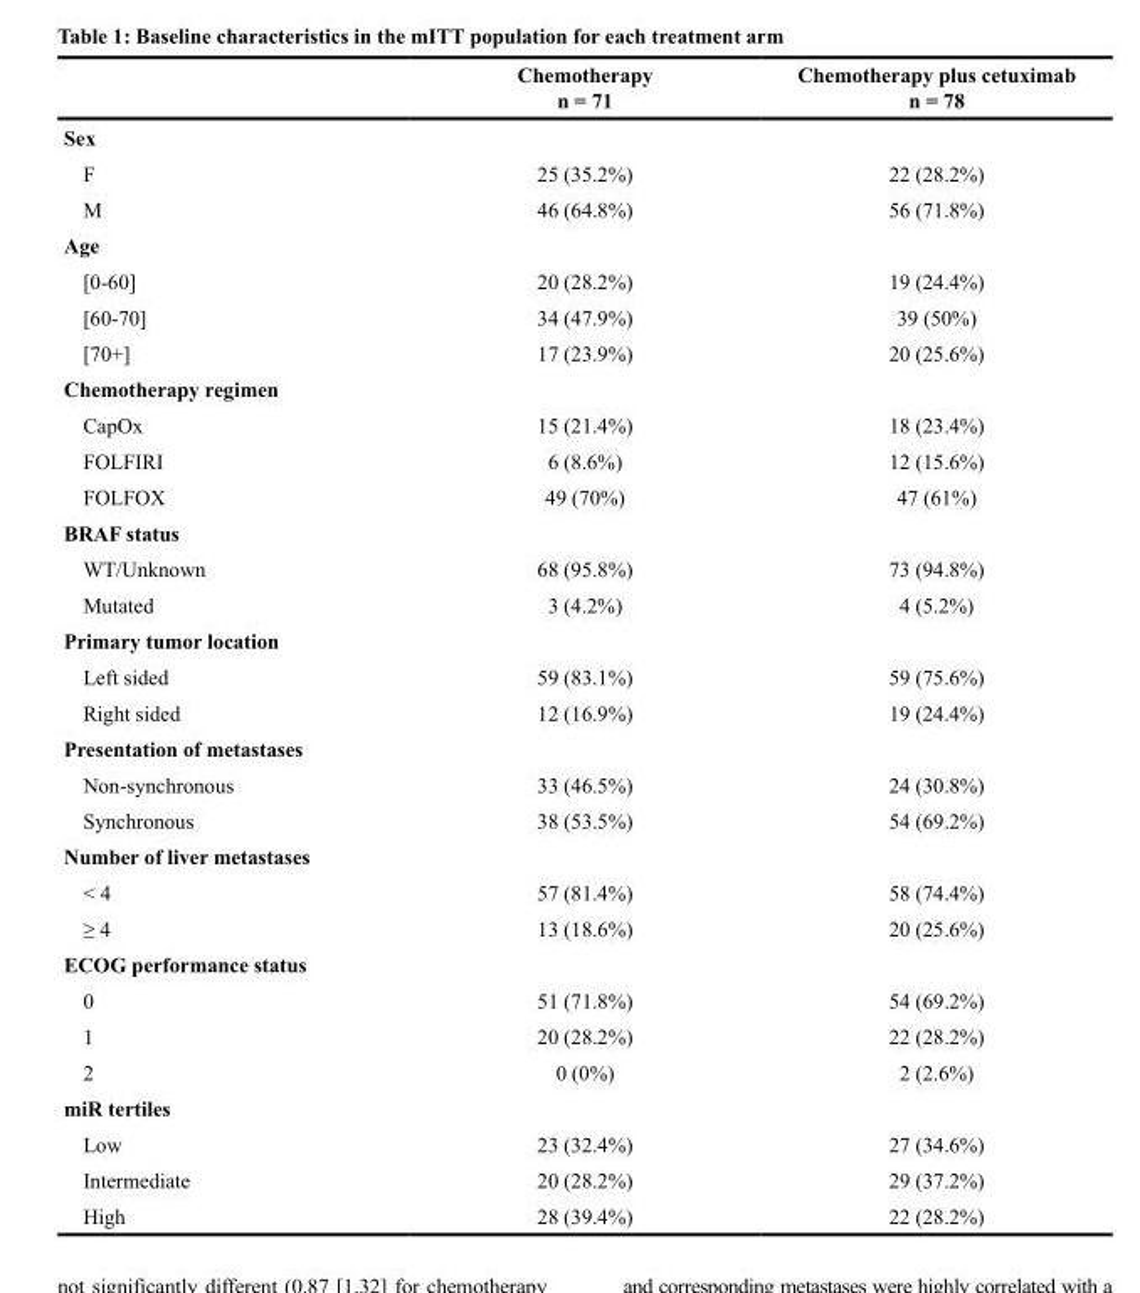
<table><thead><tr><td></td><td>Chemotherapy n = 71</td><td>Chemotherapy plus cetuximab n = 78</td></tr></thead><tbody><tr><td colspan="3">Sex</td></tr><tr><td>F</td><td>25 (35.2%)</td><td>22 (28.2%)</td></tr><tr><td>M</td><td>46 (64.8%)</td><td>56 (71.8%)</td></tr><tr><td colspan="3">Age</td></tr><tr><td>[0-60]</td><td>20 (28.2%)</td><td>19 (24.4%)</td></tr><tr><td>[60-70]</td><td>34 (47.9%)</td><td>39 (50%)</td></tr><tr><td>[70+]</td><td>17 (23.9%)</td><td>20 (25.6%)</td></tr><tr><td colspan="3">Chemotherapy regimen</td></tr><tr><td>CapOx</td><td>15 (21.4%)</td><td>18 (23.4%)</td></tr><tr><td>FOLFIRI</td><td>6 (8.6%)</td><td>12 (15.6%)</td></tr><tr><td>FOLFOX</td><td>49 (70%)</td><td>47 (61%)</td></tr><tr><td colspan="3">BRAF status</td></tr><tr><td>WT/Unknown</td><td>68 (95.8%)</td><td>73 (94.8%)</td></tr><tr><td>Mutated</td><td>3 (4.2%)</td><td>4 (5.2%)</td></tr><tr><td colspan="3">Primary tumor location</td></tr><tr><td>Left sided</td><td>59 (83.1%)</td><td>59 (75.6%)</td></tr><tr><td>Right sided</td><td>12 (16.9%)</td><td>19 (24.4%)</td></tr><tr><td colspan="3">Presentation of metastases</td></tr><tr><td>Non-synchronous</td><td>33 (46.5%)</td><td>24 (30.8%)</td></tr><tr><td>Synchronous</td><td>38 (53.5%)</td><td>54 (69.2%)</td></tr><tr><td colspan="3">Number of liver metastases</td></tr><tr><td>&lt; 4</td><td>57 (81.4%)</td><td>58 (74.4%)</td></tr><tr><td>≥ 4</td><td>13 (18.6%)</td><td>20 (25.6%)</td></tr><tr><td colspan="3">ECOG performance status</td></tr><tr><td>0</td><td>51 (71.8%)</td><td>54 (69.2%)</td></tr><tr><td>1</td><td>20 (28.2%)</td><td>22 (28.2%)</td></tr><tr><td>2</td><td>0 (0%)</td><td>2 (2.6%)</td></tr><tr><td colspan="3">miR tertiles</td></tr><tr><td>Low</td><td>23 (32.4%)</td><td>27 (34.6%)</td></tr><tr><td>Intermediate</td><td>20 (28.2%)</td><td>29 (37.2%)</td></tr><tr><td>High</td><td>28 (39.4%)</td><td>22 (28.2%)</td></tr></tbody></table>